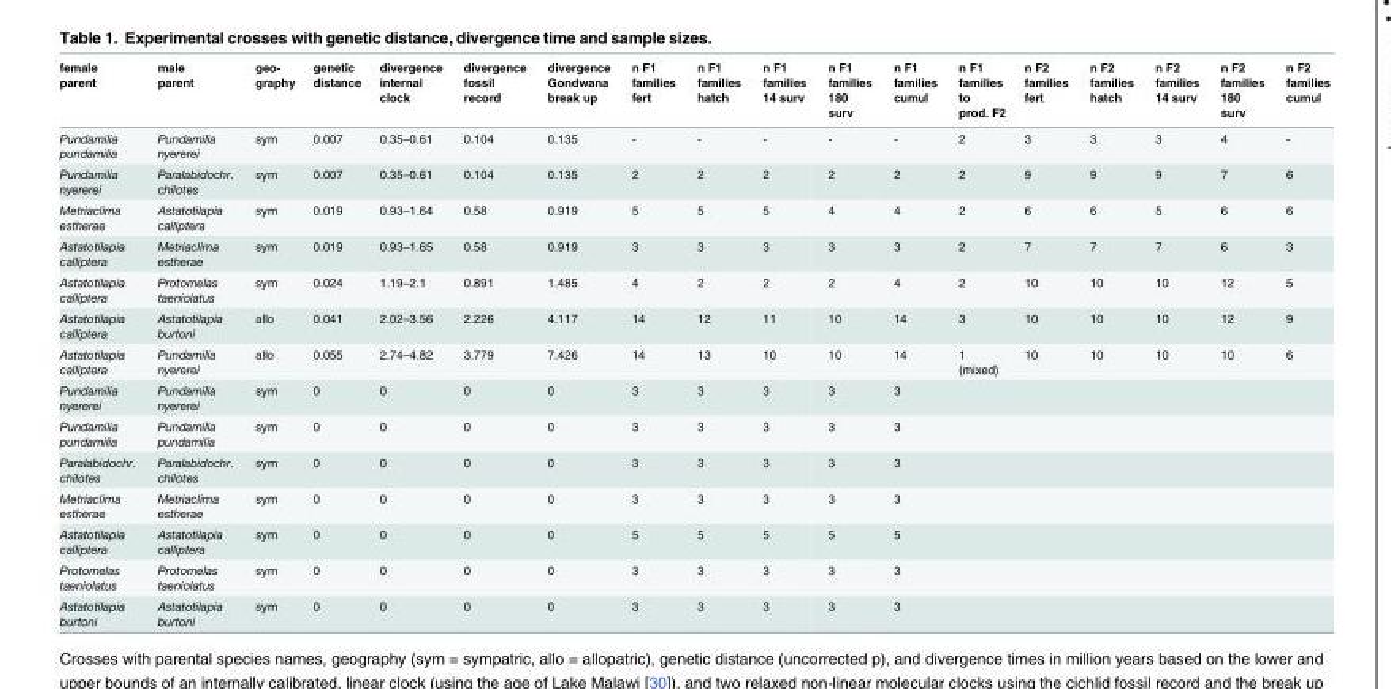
<table><thead><tr><td>female parent</td><td>male parent</td><td>geo- graphy</td><td>genetic distance</td><td>divergence internal clock</td><td>divergence fossil record</td><td>divergence Gondwana break up</td><td>n F1 families fert</td><td>n F1 families hatch</td><td>n F1 families 14 surv</td><td>n F1 families 180 surv</td><td>n F1 families cumul</td><td>n F1 families to prod. F2</td><td>n F2 families fert</td><td>n F2 families hatch</td><td>n F2 families 14 surv</td><td>n F2 families 180 surv</td><td>n F2 families cumul</td></tr></thead><tbody><tr><td>Pundamilia pundamilia</td><td>Pundamilia nyererei</td><td>sym</td><td>0.007</td><td>0.35–0.61</td><td>0.104</td><td>0.135</td><td>-</td><td>-</td><td>-</td><td>-</td><td>-</td><td>2</td><td>3</td><td>3</td><td>3</td><td>4</td><td>-</td></tr><tr><td>Pundamilia nyererei</td><td>Paralabidochr. chilotes</td><td>sym</td><td>0.007</td><td>0.35–0.61</td><td>0.104</td><td>0.135</td><td>2</td><td>2</td><td>2</td><td>2</td><td>2</td><td>2</td><td>9</td><td>9</td><td>9</td><td>7</td><td>6</td></tr><tr><td>Metriaclima estherae</td><td>Astatotilapia calliptera</td><td>sym</td><td>0.019</td><td>0.93–1.64</td><td>0.58</td><td>0.919</td><td>5</td><td>5</td><td>5</td><td>4</td><td>4</td><td>2</td><td>6</td><td>6</td><td>5</td><td>6</td><td>6</td></tr><tr><td>Astatotilapia calliptera</td><td>Metriaclima estherae</td><td>sym</td><td>0.019</td><td>0.93–1.65</td><td>0.58</td><td>0.919</td><td>3</td><td>3</td><td>3</td><td>3</td><td>3</td><td>2</td><td>7</td><td>7</td><td>7</td><td>6</td><td>3</td></tr><tr><td>Astatotilapia calliptera</td><td>Protomelas taeniolatus</td><td>sym</td><td>0.024</td><td>1.19–2.1</td><td>0.891</td><td>1.485</td><td>4</td><td>2</td><td>2</td><td>2</td><td>4</td><td>2</td><td>10</td><td>10</td><td>10</td><td>12</td><td>5</td></tr><tr><td>Astatotilapia calliptera</td><td>Astatotilapia burtoni</td><td>allo</td><td>0.041</td><td>2.02–3.56</td><td>2.226</td><td>4.117</td><td>14</td><td>12</td><td>11</td><td>10</td><td>14</td><td>3</td><td>10</td><td>10</td><td>10</td><td>12</td><td>9</td></tr><tr><td>Astatotilapia calliptera</td><td>Pundamilia nyererei</td><td>allo</td><td>0.055</td><td>2.74–4.82</td><td>3.779</td><td>7.426</td><td>14</td><td>13</td><td>10</td><td>10</td><td>14</td><td>1 (mixed)</td><td>10</td><td>10</td><td>10</td><td>10</td><td>6</td></tr><tr><td>Pundamilia nyererei</td><td>Pundamilia nyererei</td><td>sym</td><td>0</td><td>0</td><td>0</td><td>0</td><td>3</td><td>3</td><td>3</td><td>3</td><td>3</td><td></td><td></td><td></td><td></td><td></td><td></td></tr><tr><td>Pundamilia pundamilia</td><td>Pundamilia pundamilia</td><td>sym</td><td>0</td><td>0</td><td>0</td><td>0</td><td>3</td><td>3</td><td>3</td><td>3</td><td>3</td><td></td><td></td><td></td><td></td><td></td><td></td></tr><tr><td>Paralabidochr. chilotes</td><td>Paralabidochr. chilotes</td><td>sym</td><td>0</td><td>0</td><td>0</td><td>0</td><td>3</td><td>3</td><td>3</td><td>3</td><td>3</td><td></td><td></td><td></td><td></td><td></td><td></td></tr><tr><td>Metriaclima estherae</td><td>Metriaclima estherae</td><td>sym</td><td>0</td><td>0</td><td>0</td><td>0</td><td>3</td><td>3</td><td>3</td><td>3</td><td>3</td><td></td><td></td><td></td><td></td><td></td><td></td></tr><tr><td>Astatotilapia calliptera</td><td>Astatotilapia calliptera</td><td>sym</td><td>0</td><td>0</td><td>0</td><td>0</td><td>5</td><td>5</td><td>5</td><td>5</td><td>5</td><td></td><td></td><td></td><td></td><td></td><td></td></tr><tr><td>Protomelas taeniolatus</td><td>Protomelas taeniolatus</td><td>sym</td><td>0</td><td>0</td><td>0</td><td>0</td><td>3</td><td>3</td><td>3</td><td>3</td><td>3</td><td></td><td></td><td></td><td></td><td></td><td></td></tr><tr><td>Astatotilapia burtoni</td><td>Astatotilapia burtoni</td><td>sym</td><td>0</td><td>0</td><td>0</td><td>0</td><td>3</td><td>3</td><td>3</td><td>3</td><td>3</td><td></td><td></td><td></td><td></td><td></td><td></td></tr></tbody></table>